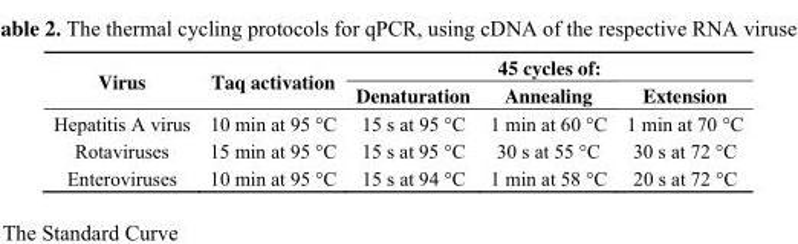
<table><thead><tr><td rowspan="2">Virus</td><td rowspan="2">Taq activation</td><td colspan="3">45 cycles of:</td></tr><tr><td>Denaturation</td><td>Annealing</td><td>Extension</td></tr></thead><tbody><tr><td>Hepatitis A virus</td><td>10 min at 95 °C</td><td>15 s at 95 °C</td><td>1 min at 60 °C</td><td>1 min at 70 °C</td></tr><tr><td>Rotaviruses</td><td>15 min at 95 °C</td><td>15 s at 95 °C</td><td>30 s at 55 °C</td><td>30 s at 72 °C</td></tr><tr><td>Enteroviruses</td><td>10 min at 95 °C</td><td>15 s at 94 °C</td><td>1 min at 58 °C</td><td>20 s at 72 °C</td></tr></tbody></table>